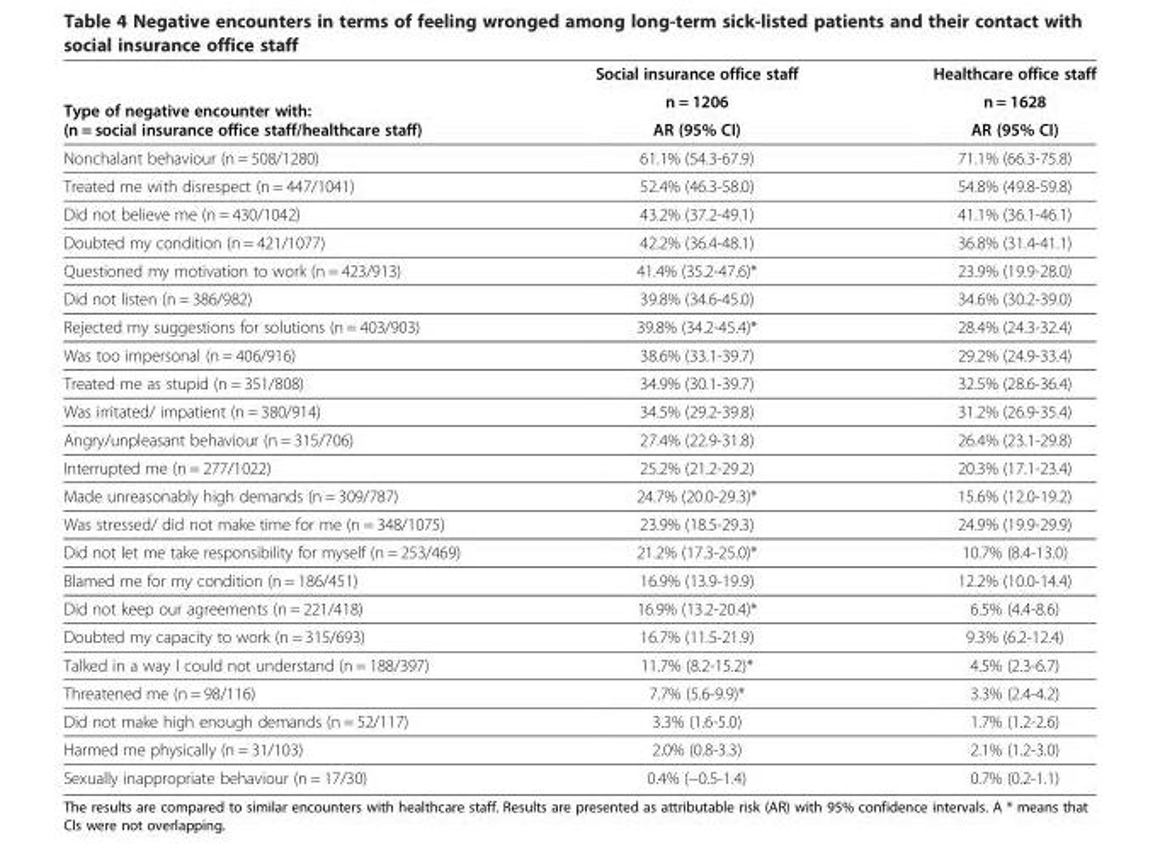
<table><thead><tr><td rowspan="3">Type of negative encounter with: (n = social insurance office staff/healthcare staff)</td><td rowspan="3">Social insurance office staff n = 1206 AR (95% CI)</td><td rowspan="3">Healthcare office staff n = 1628 AR (95% CI)</td></tr><tr></tr><tr></tr></thead><tbody><tr><td>Nonchalant behaviour (n = 508/1280)</td><td>61.1% (54.3-67.9)</td><td>71.1% (66.3-75.8)</td></tr><tr><td>Treated me with disrespect (n = 447/1041)</td><td>52.4% (46.3-58.0)</td><td>54.8% (49.8-59.8)</td></tr><tr><td>Did not believe me (n = 430/1042)</td><td>43.2% (37.2-49.1)</td><td>41.1% (36.1-46.1)</td></tr><tr><td>Doubted my condition (n = 421/1077)</td><td>42.2% (36.4-48.1)</td><td>36.8% (31.4-41.1)</td></tr><tr><td>Questioned my motivation to work (n = 423/913)</td><td>41.4% (35.2-47.6)*</td><td>23.9% (19.9-28.0)</td></tr><tr><td>Did not listen (n = 386/982)</td><td>39.8% (34.6-45.0)</td><td>34.6% (30.2-39.0)</td></tr><tr><td>Rejected my suggestions for solutions (n = 403/903)</td><td>39.8% (34.2-45.4)*</td><td>28.4% (24.3-32.4)</td></tr><tr><td>Was too impersonal (n = 406/916)</td><td>38.6% (33.1-39.7)</td><td>29.2% (24.9-33.4)</td></tr><tr><td>Treated me as stupid (n = 351/808)</td><td>34.9% (30.1-39.7)</td><td>32.5% (28.6-36.4)</td></tr><tr><td>Was irritated/ impatient (n = 380/914)</td><td>34.5% (29.2-39.8)</td><td>31.2% (26.9-35.4)</td></tr><tr><td>Angry/unpleasant behaviour (n = 315/706)</td><td>27.4% (22.9-31.8)</td><td>26.4% (23.1-29.8)</td></tr><tr><td>Interrupted me (n = 277/1022)</td><td>25.2% (21.2-29.2)</td><td>20.3% (17.1-23.4)</td></tr><tr><td>Made unreasonably high demands (n = 309/787)</td><td>24.7% (20.0-29.3)*</td><td>15.6% (12.0-19.2)</td></tr><tr><td>Was stressed/ did not make time for me (n = 348/1075)</td><td>23.9% (18.5-29.3)</td><td>24.9% (19.9-29.9)</td></tr><tr><td>Did not let me take responsibility for myself (n = 253/469)</td><td>21.2% (17.3-25.0)*</td><td>10.7% (8.4-13.0)</td></tr><tr><td>Blamed me for my condition (n = 186/451)</td><td>16.9% (13.9-19.9)</td><td>12.2% (10.0-14.4)</td></tr><tr><td>Did not keep our agreements (n = 221/418)</td><td>16.9% (13.2-20.4)*</td><td>6.5% (4.4-8.6)</td></tr><tr><td>Doubted my capacity to work (n = 315/693)</td><td>16.7% (11.5-21.9)</td><td>9.3% (6.2-12.4)</td></tr><tr><td>Talked in a way I could not understand (n = 188/397)</td><td>11.7% (8.2-15.2)*</td><td>4.5% (2.3-6.7)</td></tr><tr><td>Threatened me (n = 98/116)</td><td>7.7% (5.6-9.9)*</td><td>3.3% (2.4-4.2)</td></tr><tr><td>Did not make high enough demands (n = 52/117)</td><td>3.3% (1.6-5.0)</td><td>1.7% (1.2-2.6)</td></tr><tr><td>Harmed me physically (n = 31/103)</td><td>2.0% (0.8-3.3)</td><td>2.1% (1.2-3.0)</td></tr><tr><td>Sexually inappropriate behaviour (n = 17/30)</td><td>0.4% (−0.5-1.4)</td><td>0.7% (0.2-1.1)</td></tr></tbody></table>